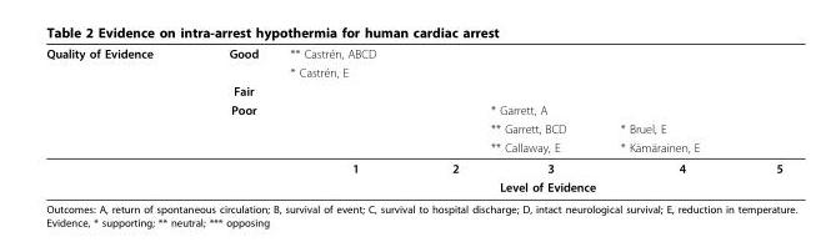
<table><thead><tr><td rowspan="6">Quality of Evidence</td><td rowspan="6">Good Fair Poor</td><td rowspan="6">** Castrén, ABCD * Castrén, E</td><td rowspan="6"></td><td rowspan="6">* Garrett, A ** Garrett, BCD ** Callaway, E</td><td rowspan="6">* Bruel, E * Kämärainen, E</td><td rowspan="6"></td></tr><tr></tr><tr></tr><tr></tr><tr></tr><tr></tr></thead><tbody><tr><td></td><td></td><td>1</td><td>2</td><td>3</td><td>4</td><td>5</td></tr><tr><td></td><td></td><td colspan="5">Level of Evidence</td></tr></tbody></table>